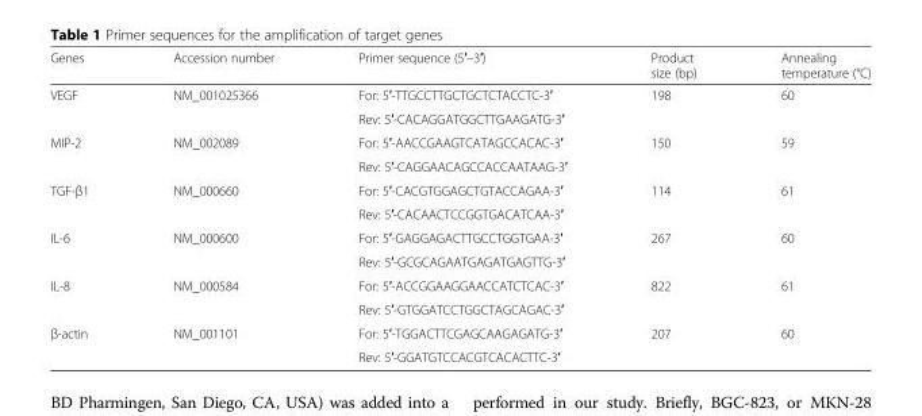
<table><thead><tr><td>Genes</td><td>Accession number</td><td>Primer sequence (5′–3′)</td><td>Product size (bp)</td><td>Annealing temperature (°C)</td></tr></thead><tbody><tr><td rowspan="2">VEGF</td><td>NM_001025366</td><td>For: 5′-TTGCCTTGCTGCTCTACCTC-3′</td><td>198</td><td>60</td></tr><tr><td></td><td>Rev: 5′-CACAGGATGGCTTGAAGATG-3′</td><td></td><td></td></tr><tr><td rowspan="2">MIP-2</td><td>NM_002089</td><td>For: 5′-AACCGAAGTCATAGCCACAC-3′</td><td>150</td><td>59</td></tr><tr><td></td><td>Rev: 5′-CAGGAACAGCCACCAATAAG-3′</td><td></td><td></td></tr><tr><td rowspan="2">TGF-β1</td><td>NM_000660</td><td>For: 5′-CACGTGGAGCTGTACCAGAA-3′</td><td>114</td><td>61</td></tr><tr><td></td><td>Rev: 5′-CACAACTCCGGTGACATCAA-3′</td><td></td><td></td></tr><tr><td rowspan="2">IL-6</td><td>NM_000600</td><td>For: 5′-GAGGAGACTTGCCTGGTGAA-3′</td><td>267</td><td>60</td></tr><tr><td></td><td>Rev: 5′-GCGCAGAATGAGATGAGTTG-3′</td><td></td><td></td></tr><tr><td rowspan="2">IL-8</td><td>NM_000584</td><td>For: 5′-ACCGGAAGGAACCATCTCAC-3′</td><td>822</td><td>61</td></tr><tr><td></td><td>Rev: 5′-GTGGATCCTGGCTAGCAGAC-3′</td><td></td><td></td></tr><tr><td rowspan="2">β-actin</td><td>NM_001101</td><td>For: 5′-TGGACTTCGAGCAAGAGATG-3′</td><td>207</td><td>60</td></tr><tr><td></td><td>Rev: 5′-GGATGTCCACGTCACACTTC-3′</td><td></td><td></td></tr></tbody></table>